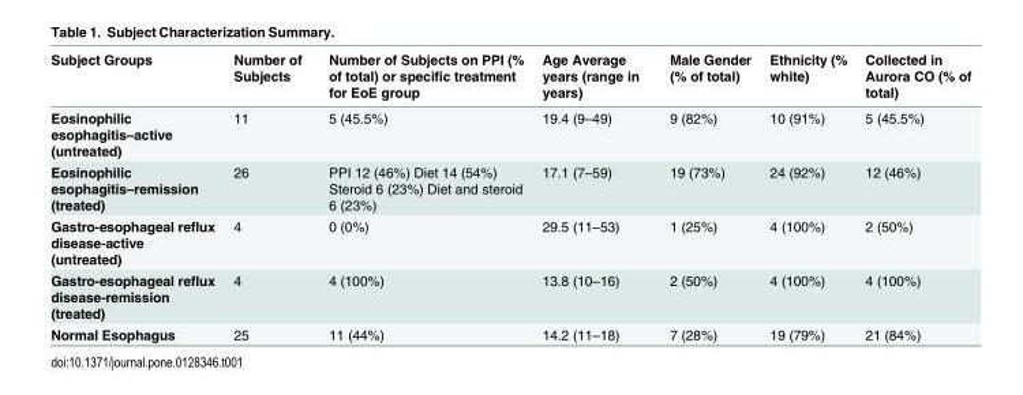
<table><thead><tr><td>Subject Groups</td><td>Number of Subjects</td><td>Number of Subjects on PPI (% of total) or specific treatment for EoE group</td><td>Age Average years (range in years)</td><td>Male Gender (% of total)</td><td>Ethnicity (% white)</td><td>Collected in Aurora CO (% of total)</td></tr></thead><tbody><tr><td>Eosinophilic esophagitis–active (untreated)</td><td>11</td><td>5 (45.5%)</td><td>19.4 (9–49)</td><td>9 (82%)</td><td>10 (91%)</td><td>5 (45.5%)</td></tr><tr><td>Eosinophilic esophagitis–remission (treated)</td><td>26</td><td>PPI 12 (46%) Diet 14 (54%) Steroid 6 (23%) Diet and steroid 6 (23%)</td><td>17.1 (7–59)</td><td>19 (73%)</td><td>24 (92%)</td><td>12 (46%)</td></tr><tr><td>Gastro-esophageal reflux disease-active (untreated)</td><td>4</td><td>0 (0%)</td><td>29.5 (11–53)</td><td>1 (25%)</td><td>4 (100%)</td><td>2 (50%)</td></tr><tr><td>Gastro-esophageal reflux disease-remission (treated)</td><td>4</td><td>4 (100%)</td><td>13.8 (10–16)</td><td>2 (50%)</td><td>4 (100%)</td><td>4 (100%)</td></tr><tr><td>Normal Esophagus</td><td>25</td><td>11 (44%)</td><td>14.2 (11–18)</td><td>7 (28%)</td><td>19 (79%)</td><td>21 (84%)</td></tr></tbody></table>